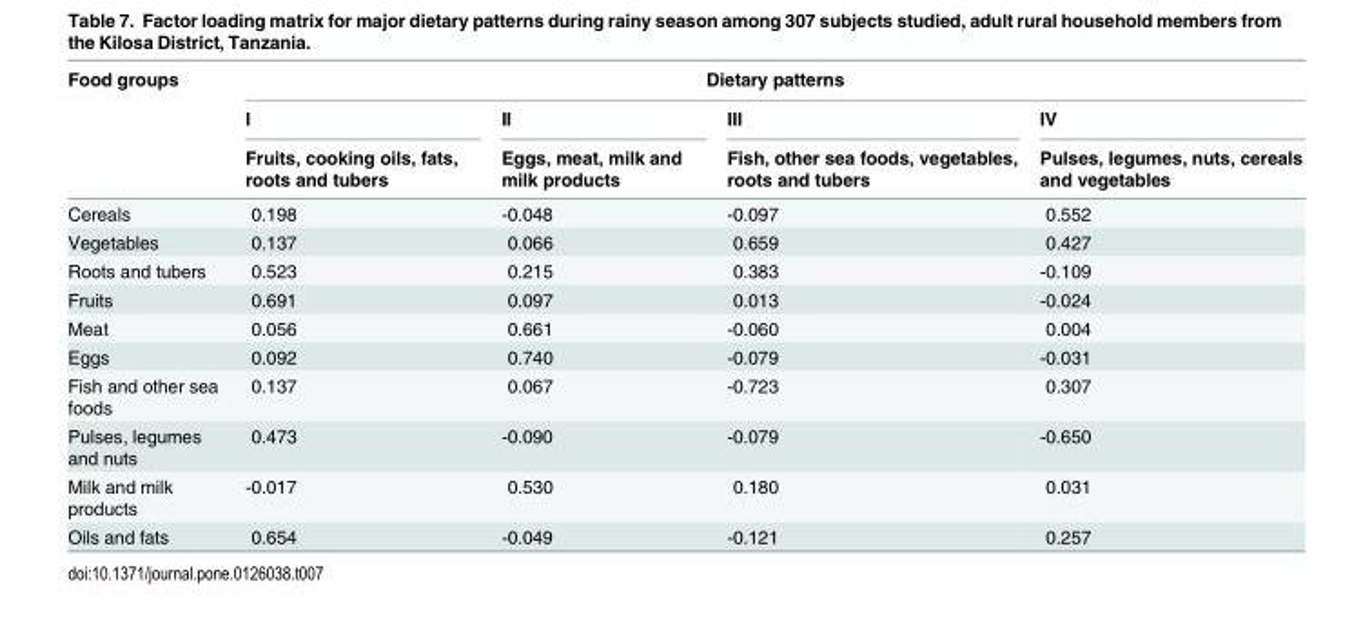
<table><thead><tr><td rowspan="3">Food groups</td><td colspan="4">Dietary patterns</td></tr><tr><td rowspan="2">I Fruits, cooking oils, fats, roots and tubers</td><td rowspan="2">II Eggs, meat, milk and milk products</td><td rowspan="2">III Fish, other sea foods, vegetables, roots and tubers</td><td rowspan="2">IV Pulses, legumes, nuts, cereals and vegetables</td></tr><tr></tr></thead><tbody><tr><td>Cereals</td><td>0.198</td><td>-0.048</td><td>-0.097</td><td>0.552</td></tr><tr><td>Vegetables</td><td>0.137</td><td>0.066</td><td>0.659</td><td>0.427</td></tr><tr><td>Roots and tubers</td><td>0.523</td><td>0.215</td><td>0.383</td><td>-0.109</td></tr><tr><td>Fruits</td><td>0.691</td><td>0.097</td><td>0.013</td><td>-0.024</td></tr><tr><td>Meat</td><td>0.056</td><td>0.661</td><td>-0.060</td><td>0.004</td></tr><tr><td>Eggs</td><td>0.092</td><td>0.740</td><td>-0.079</td><td>-0.031</td></tr><tr><td>Fish and other sea foods</td><td>0.137</td><td>0.067</td><td>-0.723</td><td>0.307</td></tr><tr><td>Pulses, legumes and nuts</td><td>0.473</td><td>-0.090</td><td>-0.079</td><td>-0.650</td></tr><tr><td>Milk and milk products</td><td>-0.017</td><td>0.530</td><td>0.180</td><td>0.031</td></tr><tr><td>Oils and fats</td><td>0.654</td><td>-0.049</td><td>-0.121</td><td>0.257</td></tr></tbody></table>